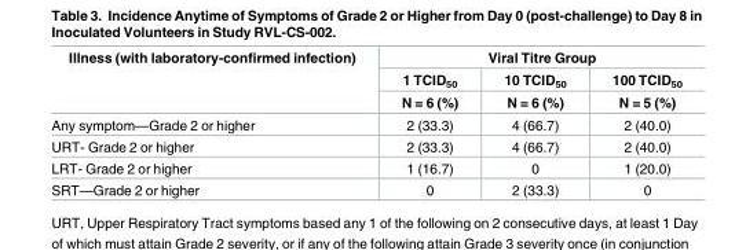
<table><thead><tr><td rowspan="3">Illness (with laboratory-confirmed infection)</td><td colspan="3">Viral Titre Group</td></tr><tr><td rowspan="2">1 TCID<sub>50</sub> N = 6 (%)</td><td rowspan="2">10 TCID<sub>50</sub> N = 6 (%)</td><td rowspan="2">100 TCID<sub>50</sub> N = 5 (%)</td></tr><tr></tr></thead><tbody><tr><td>Any symptom—Grade 2 or higher</td><td>2 (33.3)</td><td>4 (66.7)</td><td>2 (40.0)</td></tr><tr><td>URT- Grade 2 or higher</td><td>2 (33.3)</td><td>4 (66.7)</td><td>2 (40.0)</td></tr><tr><td>LRT- Grade 2 or higher</td><td>1 (16.7)</td><td>0</td><td>1 (20.0)</td></tr><tr><td>SRT—Grade 2 or higher</td><td>0</td><td>2 (33.3)</td><td>0</td></tr></tbody></table>